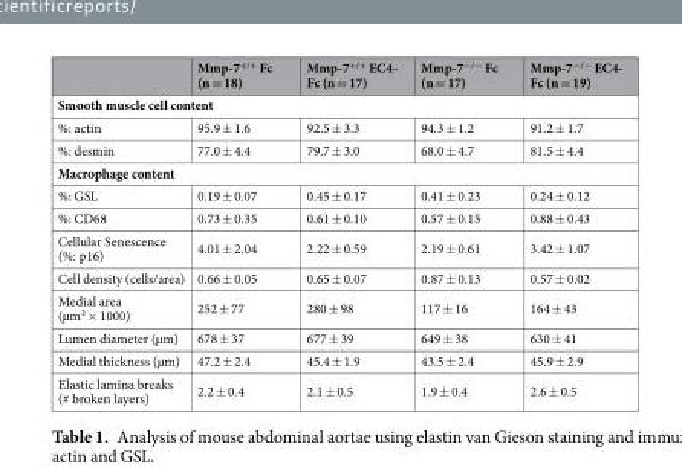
<table><thead><tr><td></td><td>Mmp-7<sup>+/+</sup> Fc (n = 18)</td><td>Mmp-7<sup>+/+</sup> EC4- Fc (n = 17)</td><td>Mmp-7<sup>−/−</sup> Fc (n = 17)</td><td>Mmp-7<sup>−/−</sup> EC4- Fc (n = 19)</td></tr></thead><tbody><tr><td colspan="5">Smooth muscle cell content</td></tr><tr><td>%: actin</td><td>95.9 ± 1.6</td><td>92.5 ± 3.3</td><td>94.3 ± 1.2</td><td>91.2 ± 1.7</td></tr><tr><td>%: desmin</td><td>77.0 ± 4.4</td><td>79.7 ± 3.0</td><td>68.0 ± 4.7</td><td>81.5 ± 4.4</td></tr><tr><td colspan="5">Macrophage content</td></tr><tr><td>%: GSL</td><td>0.19 ± 0.07</td><td>0.45 ± 0.17</td><td>0.41 ± 0.23</td><td>0.24 ± 0.12</td></tr><tr><td>%: CD68</td><td>0.73 ± 0.35</td><td>0.61 ± 0.10</td><td>0.57 ± 0.15</td><td>0.88 ± 0.43</td></tr><tr><td>Cellular Senescence (%: p16)</td><td>4.01 ± 2.04</td><td>2.22 ± 0.59</td><td>2.19 ± 0.61</td><td>3.42 ± 1.07</td></tr><tr><td>Cell density (cells/area)</td><td>0.66 ± 0.05</td><td>0.65 ± 0.07</td><td>0.87 ± 0.13</td><td>0.57 ± 0.02</td></tr><tr><td>Medial area (µm² × 1000)</td><td>252 ± 77</td><td>280 ± 98</td><td>117 ± 16</td><td>164 ± 43</td></tr><tr><td>Lumen diameter (µm)</td><td>678 ± 37</td><td>677 ± 39</td><td>649 ± 38</td><td>630 ± 41</td></tr><tr><td>Medial thickness (µm)</td><td>47.2 ± 2.4</td><td>45.4 ± 1.9</td><td>43.5 ± 2.4</td><td>45.9 ± 2.9</td></tr><tr><td>Elastic lamina breaks (# broken layers)</td><td>2.2 ± 0.4</td><td>2.1 ± 0.5</td><td>1.9 ± 0.4</td><td>2.6 ± 0.5</td></tr></tbody></table>